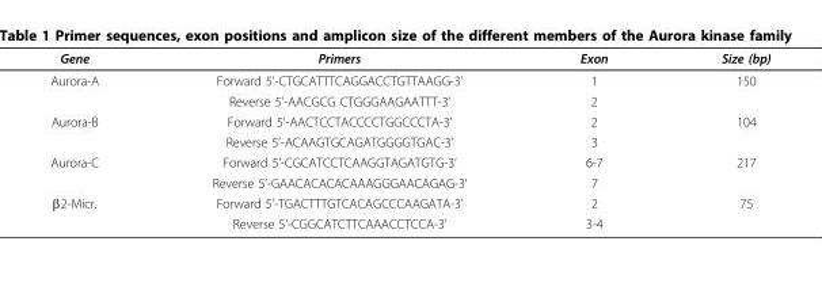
<table><thead><tr><td>Gene</td><td>Primers</td><td>Exon</td><td>Size (bp)</td></tr></thead><tbody><tr><td rowspan="2">Aurora-A</td><td>Forward 5’-CTGCATTTCAGGACCTGTTAAGG-3’</td><td>1</td><td>150</td></tr><tr><td>Reverse 5’-AACGCG CTGGGAAGAATTT-3’</td><td>2</td><td></td></tr><tr><td rowspan="2">Aurora-B</td><td>Forward 5’-AACTCCTACCCCTGGCCCTA-3’</td><td>2</td><td>104</td></tr><tr><td>Reverse 5’-ACAAGTGCAGATGGGGTGAC-3’</td><td>3</td><td></td></tr><tr><td rowspan="2">Aurora-C</td><td>Forward 5’-CGCATCCTCAAGGTAGATGTG-3’</td><td>6-7</td><td>217</td></tr><tr><td>Reverse 5’-GAACACACACAAAGGGAACAGAG-3’</td><td>7</td><td></td></tr><tr><td rowspan="2">β2-Micr.</td><td>Forward 5’-TGACTTTGTCACAGCCCAAGATA-3’</td><td>2</td><td>75</td></tr><tr><td>Reverse 5’-CGGCATCTTCAAACCTCCA-3’</td><td>3-4</td><td></td></tr></tbody></table>